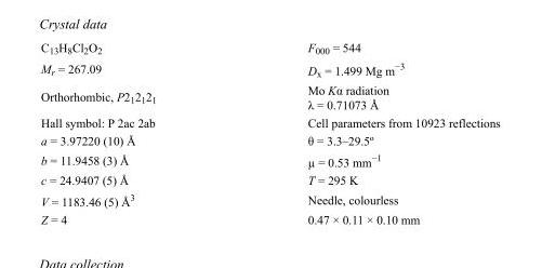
<table><tbody><tr><td>C<sub>13</sub>H<sub>8</sub>Cl<sub>2</sub>O<sub>2</sub></td><td>F000 = 544</td></tr><tr><td>M<sub>r</sub> = 267.09</td><td>D<sub>x</sub> = 1.499 Mg m<sup>−3</sup></td></tr><tr><td>Orthorhombic, P2<sub>1</sub>2<sub>1</sub>2<sub>1</sub></td><td>Mo Kα radiation λ = 0.71073 Å</td></tr><tr><td>Hall symbol: P 2ac 2ab</td><td>Cell parameters from 10923 reflections</td></tr><tr><td>a = 3.97220 (10) Å</td><td>θ = 3.3–29.5º</td></tr><tr><td>b = 11.9458 (3) Å</td><td>µ = 0.53 mm<sup>−1</sup></td></tr><tr><td>c = 24.9407 (5) Å</td><td>T = 295 K</td></tr><tr><td>V = 1183.46 (5) Å<sup>3</sup></td><td>Needle, colourless</td></tr><tr><td>Z = 4</td><td>0.47 × 0.11 × 0.10 mm</td></tr></tbody></table>